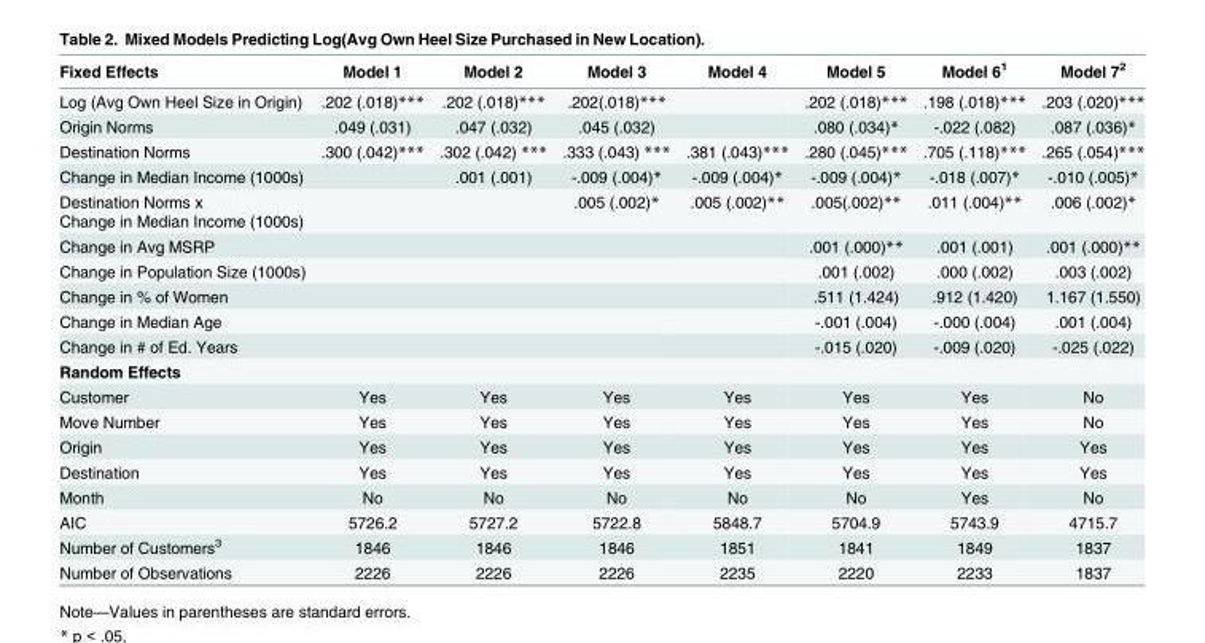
<table><thead><tr><td>Fixed Effects</td><td>Model 1</td><td>Model 2</td><td>Model 3</td><td>Model 4</td><td>Model 5</td><td>Model 6<sup>1</sup></td><td>Model 7<sup>2</sup></td></tr></thead><tbody><tr><td>Log (Avg Own Heel Size in Origin)</td><td>.202 (.018)***</td><td>.202 (.018)***</td><td>.202(.018)***</td><td></td><td>.202 (.018)***</td><td>.198 (.018)***</td><td>.203 (.020)***</td></tr><tr><td>Origin Norms</td><td>.049 (.031)</td><td>.047 (.032)</td><td>.045 (.032)</td><td></td><td>.080 (.034)*</td><td>-.022 (.082)</td><td>.087 (.036)*</td></tr><tr><td>Destination Norms</td><td>.300 (.042)***</td><td>.302 (.042) ***</td><td>.333 (.043) ***</td><td>.381 (.043)***</td><td>.280 (.045)***</td><td>.705 (.118)***</td><td>.265 (.054)***</td></tr><tr><td>Change in Median Income (1000s)</td><td></td><td>.001 (.001)</td><td>-.009 (.004)*</td><td>-.009 (.004)*</td><td>-.009 (.004)*</td><td>-.018 (.007)*</td><td>-.010 (.005)*</td></tr><tr><td>Destination Norms x Change in Median Income (1000s)</td><td></td><td></td><td>.005 (.002)*</td><td>.005 (.002)**</td><td>.005(.002)**</td><td>.011 (.004)**</td><td>.006 (.002)*</td></tr><tr><td>Change in Avg MSRP</td><td></td><td></td><td></td><td></td><td>.001 (.000)**</td><td>.001 (.001)</td><td>.001 (.000)**</td></tr><tr><td>Change in Population Size (1000s)</td><td></td><td></td><td></td><td></td><td>.001 (.002)</td><td>.000 (.002)</td><td>.003 (.002)</td></tr><tr><td>Change in % of Women</td><td></td><td></td><td></td><td></td><td>.511 (1.424)</td><td>.912 (1.420)</td><td>1.167 (1.550)</td></tr><tr><td>Change in Median Age</td><td></td><td></td><td></td><td></td><td>-.001 (.004)</td><td>-.000 (.004)</td><td>.001 (.004)</td></tr><tr><td>Change in # of Ed. Years</td><td></td><td></td><td></td><td></td><td>-.015 (.020)</td><td>-.009 (.020)</td><td>-.025 (.022)</td></tr><tr><td colspan="8">Random Effects</td></tr><tr><td>Customer</td><td>Yes</td><td>Yes</td><td>Yes</td><td>Yes</td><td>Yes</td><td>Yes</td><td>No</td></tr><tr><td>Move Number</td><td>Yes</td><td>Yes</td><td>Yes</td><td>Yes</td><td>Yes</td><td>Yes</td><td>No</td></tr><tr><td>Origin</td><td>Yes</td><td>Yes</td><td>Yes</td><td>Yes</td><td>Yes</td><td>Yes</td><td>Yes</td></tr><tr><td>Destination</td><td>Yes</td><td>Yes</td><td>Yes</td><td>Yes</td><td>Yes</td><td>Yes</td><td>Yes</td></tr><tr><td>Month</td><td>No</td><td>No</td><td>No</td><td>No</td><td>No</td><td>Yes</td><td>No</td></tr><tr><td>AIC</td><td>5726.2</td><td>5727.2</td><td>5722.8</td><td>5848.7</td><td>5704.9</td><td>5743.9</td><td>4715.7</td></tr><tr><td>Number of Customers<sup>3</sup></td><td>1846</td><td>1846</td><td>1846</td><td>1851</td><td>1841</td><td>1849</td><td>1837</td></tr><tr><td>Number of Observations</td><td>2226</td><td>2226</td><td>2226</td><td>2235</td><td>2220</td><td>2233</td><td>1837</td></tr></tbody></table>